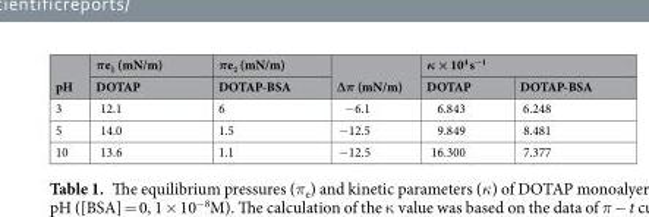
<table><thead><tr><td rowspan="2">pH</td><td rowspan="2">πe<sub>1</sub> (mN/m) DOTAP</td><td rowspan="2">πe<sub>2</sub> (mN/m) DOTAP-BSA</td><td rowspan="2">∆π (mN/m)</td><td colspan="2">κ × 10<sup>4</sup> s<sup>−1</sup></td></tr><tr><td>DOTAP</td><td>DOTAP-BSA</td></tr></thead><tbody><tr><td>3</td><td>12.1</td><td>6</td><td>−6.1</td><td>6.843</td><td>6.248</td></tr><tr><td>5</td><td>14.0</td><td>1.5</td><td>−12.5</td><td>9.849</td><td>8.481</td></tr><tr><td>10</td><td>13.6</td><td>1.1</td><td>−12.5</td><td>16.300</td><td>7.377</td></tr></tbody></table>